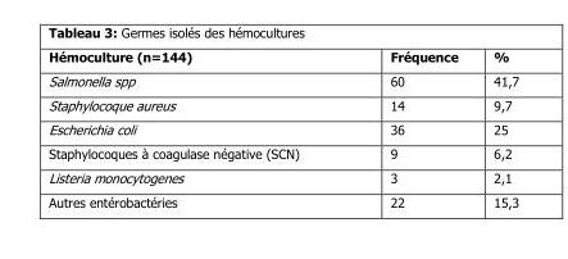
<table><thead><tr><td>Hémoculture (n=144)</td><td>Fréquence</td><td>%</td></tr></thead><tbody><tr><td>Salmonella spp</td><td>60</td><td>41,7</td></tr><tr><td>Staphylocoque aureus</td><td>14</td><td>9,7</td></tr><tr><td>Escherichia coli</td><td>36</td><td>25</td></tr><tr><td>Staphylocoques à coagulase négative (SCN)</td><td>9</td><td>6,2</td></tr><tr><td>Listeria monocytogenes</td><td>3</td><td>2,1</td></tr><tr><td>Autres entérobactéries</td><td>22</td><td>15,3</td></tr></tbody></table>